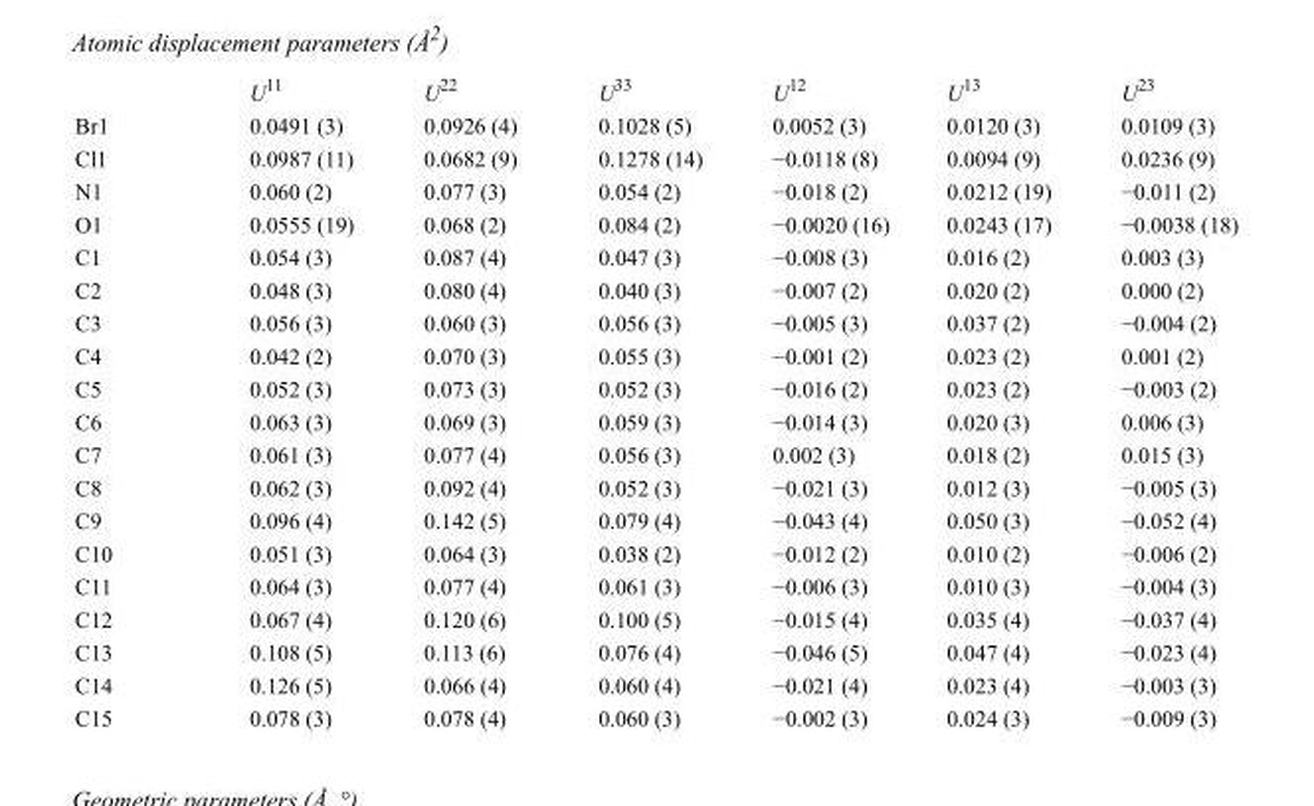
<table><thead><tr><td></td><td>U<sup>11</sup></td><td>U<sup>22</sup></td><td>U<sup>33</sup></td><td>U<sup>12</sup></td><td>U<sup>13</sup></td><td>U<sup>23</sup></td></tr></thead><tbody><tr><td>Br1</td><td>0.0491 (3)</td><td>0.0926 (4)</td><td>0.1028 (5)</td><td>0.0052 (3)</td><td>0.0120 (3)</td><td>0.0109 (3)</td></tr><tr><td>Cl1</td><td>0.0987 (11)</td><td>0.0682 (9)</td><td>0.1278 (14)</td><td>−0.0118 (8)</td><td>0.0094 (9)</td><td>0.0236 (9)</td></tr><tr><td>N1</td><td>0.060 (2)</td><td>0.077 (3)</td><td>0.054 (2)</td><td>−0.018 (2)</td><td>0.0212 (19)</td><td>−0.011 (2)</td></tr><tr><td>O1</td><td>0.0555 (19)</td><td>0.068 (2)</td><td>0.084 (2)</td><td>−0.0020 (16)</td><td>0.0243 (17)</td><td>−0.0038 (18)</td></tr><tr><td>C1</td><td>0.054 (3)</td><td>0.087 (4)</td><td>0.047 (3)</td><td>−0.008 (3)</td><td>0.016 (2)</td><td>0.003 (3)</td></tr><tr><td>C2</td><td>0.048 (3)</td><td>0.080 (4)</td><td>0.040 (3)</td><td>−0.007 (2)</td><td>0.020 (2)</td><td>0.000 (2)</td></tr><tr><td>C3</td><td>0.056 (3)</td><td>0.060 (3)</td><td>0.056 (3)</td><td>−0.005 (3)</td><td>0.037 (2)</td><td>−0.004 (2)</td></tr><tr><td>C4</td><td>0.042 (2)</td><td>0.070 (3)</td><td>0.055 (3)</td><td>−0.001 (2)</td><td>0.023 (2)</td><td>0.001 (2)</td></tr><tr><td>C5</td><td>0.052 (3)</td><td>0.073 (3)</td><td>0.052 (3)</td><td>−0.016 (2)</td><td>0.023 (2)</td><td>−0.003 (2)</td></tr><tr><td>C6</td><td>0.063 (3)</td><td>0.069 (3)</td><td>0.059 (3)</td><td>−0.014 (3)</td><td>0.020 (3)</td><td>0.006 (3)</td></tr><tr><td>C7</td><td>0.061 (3)</td><td>0.077 (4)</td><td>0.056 (3)</td><td>0.002 (3)</td><td>0.018 (2)</td><td>0.015 (3)</td></tr><tr><td>C8</td><td>0.062 (3)</td><td>0.092 (4)</td><td>0.052 (3)</td><td>−0.021 (3)</td><td>0.012 (3)</td><td>−0.005 (3)</td></tr><tr><td>C9</td><td>0.096 (4)</td><td>0.142 (5)</td><td>0.079 (4)</td><td>−0.043 (4)</td><td>0.050 (3)</td><td>−0.052 (4)</td></tr><tr><td>C10</td><td>0.051 (3)</td><td>0.064 (3)</td><td>0.038 (2)</td><td>−0.012 (2)</td><td>0.010 (2)</td><td>−0.006 (2)</td></tr><tr><td>C11</td><td>0.064 (3)</td><td>0.077 (4)</td><td>0.061 (3)</td><td>−0.006 (3)</td><td>0.010 (3)</td><td>−0.004 (3)</td></tr><tr><td>C12</td><td>0.067 (4)</td><td>0.120 (6)</td><td>0.100 (5)</td><td>−0.015 (4)</td><td>0.035 (4)</td><td>−0.037 (4)</td></tr><tr><td>C13</td><td>0.108 (5)</td><td>0.113 (6)</td><td>0.076 (4)</td><td>−0.046 (5)</td><td>0.047 (4)</td><td>−0.023 (4)</td></tr><tr><td>C14</td><td>0.126 (5)</td><td>0.066 (4)</td><td>0.060 (4)</td><td>−0.021 (4)</td><td>0.023 (4)</td><td>−0.003 (3)</td></tr><tr><td>C15</td><td>0.078 (3)</td><td>0.078 (4)</td><td>0.060 (3)</td><td>−0.002 (3)</td><td>0.024 (3)</td><td>−0.009 (3)</td></tr></tbody></table>